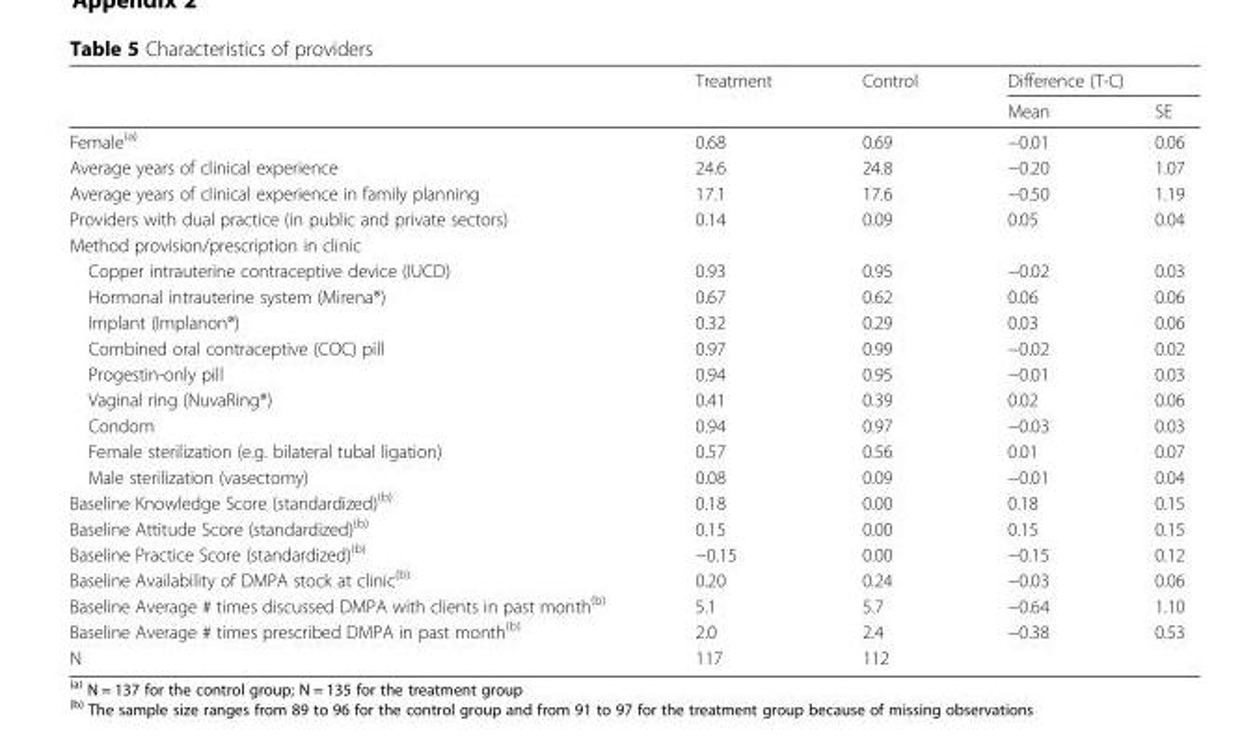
<table><thead><tr><td rowspan="2"></td><td rowspan="2">Treatment</td><td rowspan="2">Control</td><td colspan="2">Difference (T-C)</td></tr><tr><td>Mean</td><td>SE</td></tr></thead><tbody><tr><td>Female<sup>(a)</sup></td><td>0.68</td><td>0.69</td><td>−0.01</td><td>0.06</td></tr><tr><td>Average years of clinical experience</td><td>24.6</td><td>24.8</td><td>−0.20</td><td>1.07</td></tr><tr><td>Average years of clinical experience in family planning</td><td>17.1</td><td>17.6</td><td>−0.50</td><td>1.19</td></tr><tr><td>Providers with dual practice (in public and private sectors)</td><td>0.14</td><td>0.09</td><td>0.05</td><td>0.04</td></tr><tr><td colspan="5">Method provision/prescription in clinic</td></tr><tr><td>Copper intrauterine contraceptive device (IUCD)</td><td>0.93</td><td>0.95</td><td>−0.02</td><td>0.03</td></tr><tr><td>Hormonal intrauterine system (Mirena®)</td><td>0.67</td><td>0.62</td><td>0.06</td><td>0.06</td></tr><tr><td>Implant (Implanon®)</td><td>0.32</td><td>0.29</td><td>0.03</td><td>0.06</td></tr><tr><td>Combined oral contraceptive (COC) pill</td><td>0.97</td><td>0.99</td><td>−0.02</td><td>0.02</td></tr><tr><td>Progestin-only pill</td><td>0.94</td><td>0.95</td><td>−0.01</td><td>0.03</td></tr><tr><td>Vaginal ring (NuvaRing®)</td><td>0.41</td><td>0.39</td><td>0.02</td><td>0.06</td></tr><tr><td>Condom</td><td>0.94</td><td>0.97</td><td>−0.03</td><td>0.03</td></tr><tr><td>Female sterilization (e.g. bilateral tubal ligation)</td><td>0.57</td><td>0.56</td><td>0.01</td><td>0.07</td></tr><tr><td>Male sterilization (vasectomy)</td><td>0.08</td><td>0.09</td><td>−0.01</td><td>0.04</td></tr><tr><td>Baseline Knowledge Score (standardized)<sup>(b)</sup></td><td>0.18</td><td>0.00</td><td>0.18</td><td>0.15</td></tr><tr><td>Baseline Attitude Score (standardized)<sup>(b)</sup></td><td>0.15</td><td>0.00</td><td>0.15</td><td>0.15</td></tr><tr><td>Baseline Practice Score (standardized)<sup>(b)</sup></td><td>−0.15</td><td>0.00</td><td>−0.15</td><td>0.12</td></tr><tr><td>Baseline Availability of DMPA stock at clinic<sup>(b)</sup></td><td>0.20</td><td>0.24</td><td>−0.03</td><td>0.06</td></tr><tr><td>Baseline Average # times discussed DMPA with clients in past month<sup>(b)</sup></td><td>5.1</td><td>5.7</td><td>−0.64</td><td>1.10</td></tr><tr><td>Baseline Average # times prescribed DMPA in past month<sup>(b)</sup></td><td>2.0</td><td>2.4</td><td>−0.38</td><td>0.53</td></tr><tr><td>N</td><td>117</td><td>112</td><td></td><td></td></tr></tbody></table>